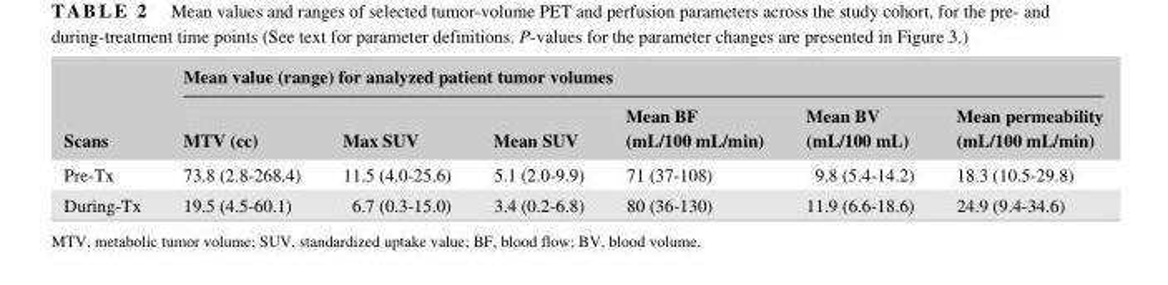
<table><thead><tr><td rowspan="2">Scans</td><td colspan="6">Mean value (range) for analyzed patient tumor volumes</td></tr><tr><td>MTV (cc)</td><td>Max SUV</td><td>Mean SUV</td><td>Mean BF (mL/100 mL/min)</td><td>Mean BV (mL/100 mL)</td><td>Mean permeability (mL/100 mL/min)</td></tr></thead><tbody><tr><td>Pre- Tx</td><td>73.8 (2.8- 268.4)</td><td>11.5 (4.0- 25.6)</td><td>5.1 (2.0- 9.9)</td><td>71 (37- 108)</td><td>9.8 (5.4- 14.2)</td><td>18.3 (10.5- 29.8)</td></tr><tr><td>During- Tx</td><td>19.5 (4.5- 60.1)</td><td>6.7 (0.3- 15.0)</td><td>3.4 (0.2- 6.8)</td><td>80 (36- 130)</td><td>11.9 (6.6- 18.6)</td><td>24.9 (9.4- 34.6)</td></tr></tbody></table>